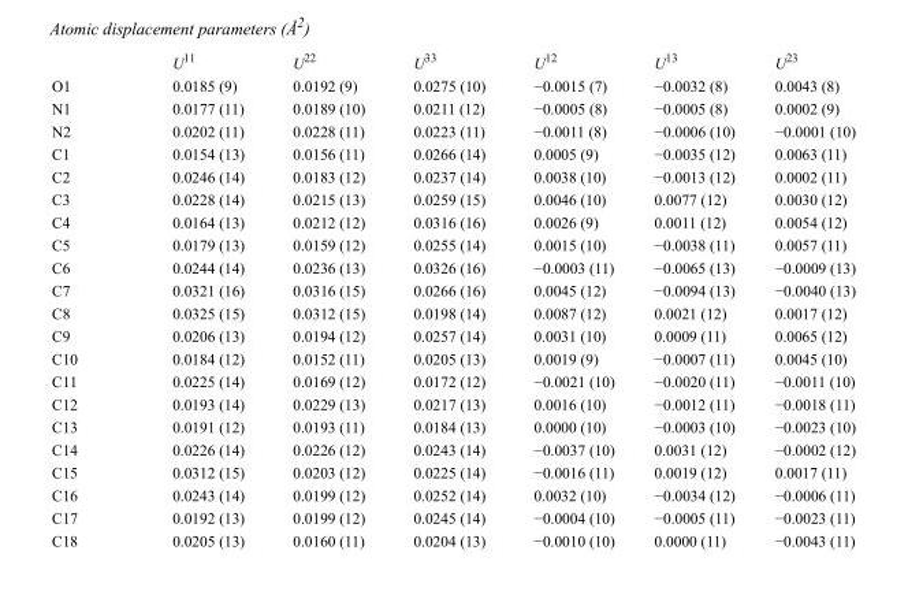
<table><thead><tr><td></td><td>U<sup>11</sup></td><td>U<sup>22</sup></td><td>U<sup>33</sup></td><td>U<sup>12</sup></td><td>U<sup>13</sup></td><td>U<sup>23</sup></td></tr></thead><tbody><tr><td>O1</td><td>0.0185 (9)</td><td>0.0192 (9)</td><td>0.0275 (10)</td><td>−0.0015 (7)</td><td>−0.0032 (8)</td><td>0.0043 (8)</td></tr><tr><td>N1</td><td>0.0177 (11)</td><td>0.0189 (10)</td><td>0.0211 (12)</td><td>−0.0005 (8)</td><td>−0.0005 (8)</td><td>0.0002 (9)</td></tr><tr><td>N2</td><td>0.0202 (11)</td><td>0.0228 (11)</td><td>0.0223 (11)</td><td>−0.0011 (8)</td><td>−0.0006 (10)</td><td>−0.0001 (10)</td></tr><tr><td>C1</td><td>0.0154 (13)</td><td>0.0156 (11)</td><td>0.0266 (14)</td><td>0.0005 (9)</td><td>−0.0035 (12)</td><td>0.0063 (11)</td></tr><tr><td>C2</td><td>0.0246 (14)</td><td>0.0183 (12)</td><td>0.0237 (14)</td><td>0.0038 (10)</td><td>−0.0013 (12)</td><td>0.0002 (11)</td></tr><tr><td>C3</td><td>0.0228 (14)</td><td>0.0215 (13)</td><td>0.0259 (15)</td><td>0.0046 (10)</td><td>0.0077 (12)</td><td>0.0030 (12)</td></tr><tr><td>C4</td><td>0.0164 (13)</td><td>0.0212 (12)</td><td>0.0316 (16)</td><td>0.0026 (9)</td><td>0.0011 (12)</td><td>0.0054 (12)</td></tr><tr><td>C5</td><td>0.0179 (13)</td><td>0.0159 (12)</td><td>0.0255 (14)</td><td>0.0015 (10)</td><td>−0.0038 (11)</td><td>0.0057 (11)</td></tr><tr><td>C6</td><td>0.0244 (14)</td><td>0.0236 (13)</td><td>0.0326 (16)</td><td>−0.0003 (11)</td><td>−0.0065 (13)</td><td>−0.0009 (13)</td></tr><tr><td>C7</td><td>0.0321 (16)</td><td>0.0316 (15)</td><td>0.0266 (16)</td><td>0.0045 (12)</td><td>−0.0094 (13)</td><td>−0.0040 (13)</td></tr><tr><td>C8</td><td>0.0325 (15)</td><td>0.0312 (15)</td><td>0.0198 (14)</td><td>0.0087 (12)</td><td>0.0021 (12)</td><td>0.0017 (12)</td></tr><tr><td>C9</td><td>0.0206 (13)</td><td>0.0194 (12)</td><td>0.0257 (14)</td><td>0.0031 (10)</td><td>0.0009 (11)</td><td>0.0065 (12)</td></tr><tr><td>C10</td><td>0.0184 (12)</td><td>0.0152 (11)</td><td>0.0205 (13)</td><td>0.0019 (9)</td><td>−0.0007 (11)</td><td>0.0045 (10)</td></tr><tr><td>C11</td><td>0.0225 (14)</td><td>0.0169 (12)</td><td>0.0172 (12)</td><td>−0.0021 (10)</td><td>−0.0020 (11)</td><td>−0.0011 (10)</td></tr><tr><td>C12</td><td>0.0193 (14)</td><td>0.0229 (13)</td><td>0.0217 (13)</td><td>0.0016 (10)</td><td>−0.0012 (11)</td><td>−0.0018 (11)</td></tr><tr><td>C13</td><td>0.0191 (12)</td><td>0.0193 (11)</td><td>0.0184 (13)</td><td>0.0000 (10)</td><td>−0.0003 (10)</td><td>−0.0023 (10)</td></tr><tr><td>C14</td><td>0.0226 (14)</td><td>0.0226 (12)</td><td>0.0243 (14)</td><td>−0.0037 (10)</td><td>0.0031 (12)</td><td>−0.0002 (12)</td></tr><tr><td>C15</td><td>0.0312 (15)</td><td>0.0203 (12)</td><td>0.0225 (14)</td><td>−0.0016 (11)</td><td>0.0019 (12)</td><td>0.0017 (11)</td></tr><tr><td>C16</td><td>0.0243 (14)</td><td>0.0199 (12)</td><td>0.0252 (14)</td><td>0.0032 (10)</td><td>−0.0034 (12)</td><td>−0.0006 (11)</td></tr><tr><td>C17</td><td>0.0192 (13)</td><td>0.0199 (12)</td><td>0.0245 (14)</td><td>−0.0004 (10)</td><td>−0.0005 (11)</td><td>−0.0023 (11)</td></tr><tr><td>C18</td><td>0.0205 (13)</td><td>0.0160 (11)</td><td>0.0204 (13)</td><td>−0.0010 (10)</td><td>0.0000 (11)</td><td>−0.0043 (11)</td></tr></tbody></table>